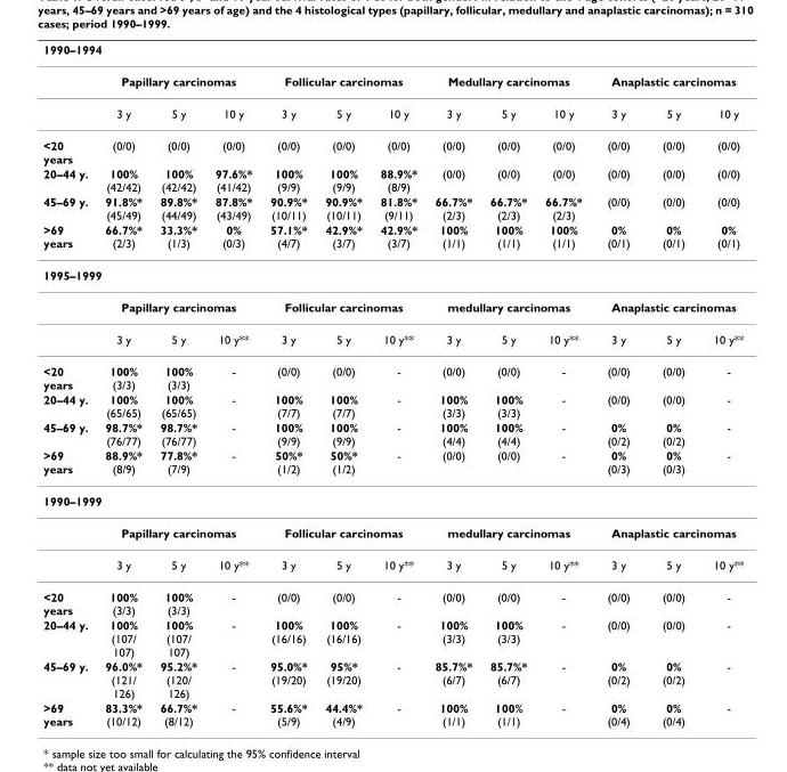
<table><thead><tr><td colspan="13">1990–1994</td></tr><tr><td rowspan="2"></td><td colspan="3">Papillary carcinomas</td><td colspan="3">Follicular carcinomas</td><td colspan="3">Medullary carcinomas</td><td colspan="3">Anaplastic carcinomas</td></tr><tr><td>3 y</td><td>5 y</td><td>10 y</td><td>3 y</td><td>5 y</td><td>10 y</td><td>3 y</td><td>5 y</td><td>10 y</td><td>3 y</td><td>5 y</td><td>10 y</td></tr></thead><tbody><tr><td>&lt;20 years</td><td>(0/0)</td><td>(0/0)</td><td>(0/0)</td><td>(0/0)</td><td>(0/0)</td><td>(0/0)</td><td>(0/0)</td><td>(0/0)</td><td>(0/0)</td><td>(0/0)</td><td>(0/0)</td><td>(0/0)</td></tr><tr><td>20–44 y.</td><td>100% (42/42)</td><td>100% (42/42)</td><td>97.6%* (41/42)</td><td>100% (9/9)</td><td>100% (9/9)</td><td>88.9%* (8/9)</td><td>(0/0)</td><td>(0/0)</td><td>(0/0)</td><td>(0/0)</td><td>(0/0)</td><td>(0/0)</td></tr><tr><td>45–69 y.</td><td>91.8%* (45/49)</td><td>89.8%* (44/49)</td><td>87.8%* (43/49)</td><td>90.9%* (10/11)</td><td>90.9%* (10/11)</td><td>81.8%* (9/11)</td><td>66.7%* (2/3)</td><td>66.7%* (2/3)</td><td>66.7%* (2/3)</td><td>(0/0)</td><td>(0/0)</td><td>(0/0)</td></tr><tr><td>&gt;69 years</td><td>66.7%* (2/3)</td><td>33.3%* (1/3)</td><td>0% (0/3)</td><td>57.1%* (4/7)</td><td>42.9%* (3/7)</td><td>42.9%* (3/7)</td><td>100% (1/1)</td><td>100% (1/1)</td><td>100% (1/1)</td><td>0% (0/1)</td><td>0% (0/1)</td><td>0% (0/1)</td></tr><tr><td colspan="13">1995–1999</td></tr><tr><td></td><td colspan="3">Papillary carcinomas</td><td colspan="3">Follicular carcinomas</td><td colspan="3">medullary carcinomas</td><td colspan="3">Anaplastic carcinomas</td></tr><tr><td></td><td>3 y</td><td>5 y</td><td>10 y**</td><td>3 y</td><td>5 y</td><td>10 y**</td><td>3 y</td><td>5 y</td><td>10 y**</td><td>3 y</td><td>5 y</td><td>10 y**</td></tr><tr><td>&lt;20 years</td><td>100% (3/3)</td><td>100% (3/3)</td><td>-</td><td>(0/0)</td><td>(0/0)</td><td>-</td><td>(0/0)</td><td>(0/0)</td><td>-</td><td>(0/0)</td><td>(0/0)</td><td>-</td></tr><tr><td>20–44 y.</td><td>100% (65/65)</td><td>100% (65/65)</td><td>-</td><td>100% (7/7)</td><td>100% (7/7)</td><td>-</td><td>100% (3/3)</td><td>100% (3/3)</td><td>-</td><td>(0/0)</td><td>(0/0)</td><td>-</td></tr><tr><td>45–69 y.</td><td>98.7%* (76/77)</td><td>98.7%* (76/77)</td><td>-</td><td>100% (9/9)</td><td>100% (9/9)</td><td>-</td><td>100% (4/4)</td><td>100% (4/4)</td><td>-</td><td>0% (0/2)</td><td>0% (0/2)</td><td>-</td></tr><tr><td>&gt;69 years</td><td>88.9%* (8/9)</td><td>77.8%* (7/9)</td><td>-</td><td>50%* (1/2)</td><td>50%* (1/2)</td><td>-</td><td>(0/0)</td><td>(0/0)</td><td>-</td><td>0% (0/3)</td><td>0% (0/3)</td><td>-</td></tr><tr><td colspan="13">1990–1999</td></tr><tr><td></td><td colspan="3">Papillary carcinomas</td><td colspan="3">Follicular carcinomas</td><td colspan="3">medullary carcinomas</td><td colspan="3">Anaplastic carcinomas</td></tr><tr><td></td><td>3 y</td><td>5 y</td><td>10 y**</td><td>3 y</td><td>5 y</td><td>10 y**</td><td>3 y</td><td>5 y</td><td>10 y**</td><td>3 y</td><td>5 y</td><td>10 y**</td></tr><tr><td>&lt;20 years</td><td>100% (3/3)</td><td>100% (3/3)</td><td>-</td><td>(0/0)</td><td>(0/0)</td><td>-</td><td>(0/0)</td><td>(0/0)</td><td>-</td><td>(0/0)</td><td>(0/0)</td><td>-</td></tr><tr><td>20–44 y.</td><td>100% (107/ 107)</td><td>100% (107/ 107)</td><td>-</td><td>100% (16/16)</td><td>100% (16/16)</td><td>-</td><td>100% (3/3)</td><td>100% (3/3)</td><td>-</td><td>(0/0)</td><td>(0/0)</td><td>-</td></tr><tr><td>45–69 y.</td><td>96.0%* (121/ 126)</td><td>95.2%* (120/ 126)</td><td>-</td><td>95.0%* (19/20)</td><td>95%* (19/20)</td><td>-</td><td>85.7%* (6/7)</td><td>85.7%* (6/7)</td><td>-</td><td>0% (0/2)</td><td>0% (0/2)</td><td>-</td></tr><tr><td>&gt;69 years</td><td>83.3%* (10/12)</td><td>66.7%* (8/12)</td><td>-</td><td>55.6%* (5/9)</td><td>44.4%* (4/9)</td><td>-</td><td>100% (1/1)</td><td>100% (1/1)</td><td>-</td><td>0% (0/4)</td><td>0% (0/4)</td><td>-</td></tr></tbody></table>